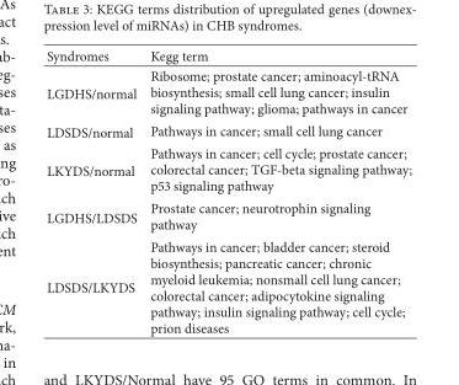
<table><thead><tr><td>Syndromes</td><td>Kegg term</td></tr></thead><tbody><tr><td>LGDHS/normal</td><td>Ribosome; prostate cancer; aminoacyl-tRNA biosynthesis; small cell lung cancer; insulin signaling pathway; glioma; pathways in cancer</td></tr><tr><td>LDSDS/normal</td><td>Pathways in cancer; small cell lung cancer</td></tr><tr><td>LKYDS/normal</td><td>Pathways in cancer; cell cycle; prostate cancer; colorectal cancer; TGF-beta signaling pathway; p53 signaling pathway</td></tr><tr><td>LGDHS/LDSDS</td><td>Prostate cancer; neurotrophin signaling pathway</td></tr><tr><td>LDSDS/LKYDS</td><td>Pathways in cancer; bladder cancer; steroid biosynthesis; pancreatic cancer; chronic myeloid leukemia; nonsmall cell lung cancer; colorectal cancer; adipocytokine signaling pathway; insulin signaling pathway; cell cycle; prion diseases</td></tr></tbody></table>